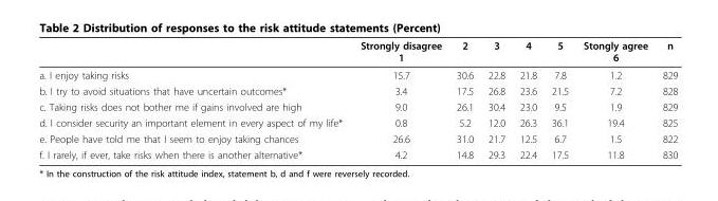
<table><thead><tr><td></td><td>Strongly disagree 1</td><td>2</td><td>3</td><td>4</td><td>5</td><td>Stongly agree 6</td><td>n</td></tr></thead><tbody><tr><td>a. I enjoy taking risks</td><td>15.7</td><td>30.6</td><td>22.8</td><td>21.8</td><td>7.8</td><td>1.2</td><td>829</td></tr><tr><td>b. I try to avoid situations that have uncertain outcomes*</td><td>3.4</td><td>17.5</td><td>26.8</td><td>23.6</td><td>21.5</td><td>7.2</td><td>828</td></tr><tr><td>c. Taking risks does not bother me if gains involved are high</td><td>9.0</td><td>26.1</td><td>30.4</td><td>23.0</td><td>9.5</td><td>1.9</td><td>829</td></tr><tr><td>d. I consider security an important element in every aspect of my life*</td><td>0.8</td><td>5.2</td><td>12.0</td><td>26.3</td><td>36.1</td><td>19.4</td><td>825</td></tr><tr><td>e. People have told me that I seem to enjoy taking chances</td><td>26.6</td><td>31.0</td><td>21.7</td><td>12.5</td><td>6.7</td><td>1.5</td><td>822</td></tr><tr><td>f. I rarely, if ever, take risks when there is another alternative*</td><td>4.2</td><td>14.8</td><td>29.3</td><td>22.4</td><td>17.5</td><td>11.8</td><td>830</td></tr></tbody></table>